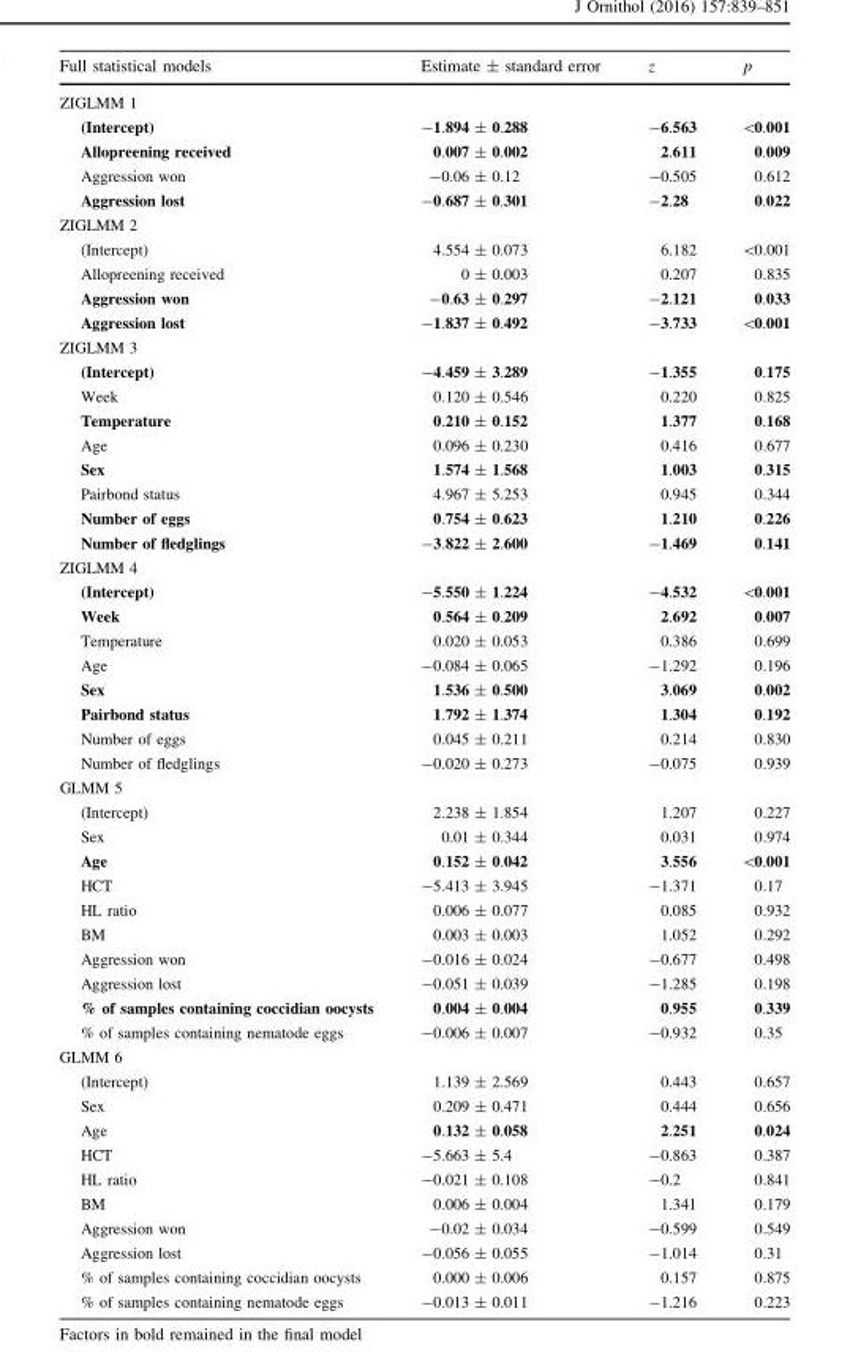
<table><thead><tr><td>Full statistical models</td><td>Estimate ± standard error</td><td>z</td><td>p</td></tr></thead><tbody><tr><td colspan="4">ZIGLMM 1</td></tr><tr><td>(Intercept)</td><td>-1.894 ± 0.288</td><td>-6.563</td><td>&lt;0.001</td></tr><tr><td>Allopreening received</td><td>0.007 ± 0.002</td><td>2.611</td><td>0.009</td></tr><tr><td>Aggression won</td><td>-0.06 ± 0.12</td><td>-0.505</td><td>0.612</td></tr><tr><td>Aggression lost</td><td>-0.687 ± 0.301</td><td>-2.28</td><td>0.022</td></tr><tr><td colspan="4">ZIGLMM 2</td></tr><tr><td>(Intercept)</td><td>4.554 ± 0.073</td><td>6.182</td><td>&lt;0.001</td></tr><tr><td>Allopreening received</td><td>0 ± 0.003</td><td>0.207</td><td>0.835</td></tr><tr><td>Aggression won</td><td>-0.63 ± 0.297</td><td>-2.121</td><td>0.033</td></tr><tr><td>Aggression lost</td><td>-1.837 ± 0.492</td><td>-3.733</td><td>&lt;0.001</td></tr><tr><td colspan="4">ZIGLMM 3</td></tr><tr><td>(Intercept)</td><td>-4.459 ± 3.289</td><td>-1.355</td><td>0.175</td></tr><tr><td>Week</td><td>0.120 ± 0.546</td><td>0.220</td><td>0.825</td></tr><tr><td>Temperature</td><td>0.210 ± 0.152</td><td>1.377</td><td>0.168</td></tr><tr><td>Age</td><td>0.096 ± 0.230</td><td>0.416</td><td>0.677</td></tr><tr><td>Sex</td><td>1.574 ± 1.568</td><td>1.003</td><td>0.315</td></tr><tr><td>Pairbond status</td><td>4.967 ± 5.253</td><td>0.945</td><td>0.344</td></tr><tr><td>Number of eggs</td><td>0.754 ± 0.623</td><td>1.210</td><td>0.226</td></tr><tr><td>Number of fledglings</td><td>-3.822 ± 2.600</td><td>-1.469</td><td>0.141</td></tr><tr><td colspan="4">ZIGLMM 4</td></tr><tr><td>(Intercept)</td><td>-5.550 ± 1.224</td><td>-4.532</td><td>&lt;0.001</td></tr><tr><td>Week</td><td>0.564 ± 0.209</td><td>2.692</td><td>0.007</td></tr><tr><td>Temperature</td><td>0.020 ± 0.053</td><td>0.386</td><td>0.699</td></tr><tr><td>Age</td><td>-0.084 ± 0.065</td><td>-1.292</td><td>0.196</td></tr><tr><td>Sex</td><td>1.536 ± 0.500</td><td>3.069</td><td>0.002</td></tr><tr><td>Pairbond status</td><td>1.792 ± 1.374</td><td>1.304</td><td>0.192</td></tr><tr><td>Number of eggs</td><td>0.045 ± 0.211</td><td>0.214</td><td>0.830</td></tr><tr><td>Number of fledglings</td><td>-0.020 ± 0.273</td><td>-0.075</td><td>0.939</td></tr><tr><td colspan="4">GLMM 5</td></tr><tr><td>(Intercept)</td><td>2.238 ± 1.854</td><td>1.207</td><td>0.227</td></tr><tr><td>Sex</td><td>0.01 ± 0.344</td><td>0.031</td><td>0.974</td></tr><tr><td>Age</td><td>0.152 ± 0.042</td><td>3.556</td><td>&lt;0.001</td></tr><tr><td>HCT</td><td>-5.413 ± 3.945</td><td>-1.371</td><td>0.17</td></tr><tr><td>HL ratio</td><td>0.006 ± 0.077</td><td>0.085</td><td>0.932</td></tr><tr><td>BM</td><td>0.003 ± 0.003</td><td>1.052</td><td>0.292</td></tr><tr><td>Aggression won</td><td>-0.016 ± 0.024</td><td>-0.677</td><td>0.498</td></tr><tr><td>Aggression lost</td><td>-0.051 ± 0.039</td><td>-1.285</td><td>0.198</td></tr><tr><td>% of samples containing coccidian oocysts</td><td>0.004 ± 0.004</td><td>0.955</td><td>0.339</td></tr><tr><td>% of samples containing nematode eggs</td><td>-0.006 ± 0.007</td><td>-0.932</td><td>0.35</td></tr><tr><td colspan="4">GLMM 6</td></tr><tr><td>(Intercept)</td><td>1.139 ± 2.569</td><td>0.443</td><td>0.657</td></tr><tr><td>Sex</td><td>0.209 ± 0.471</td><td>0.444</td><td>0.656</td></tr><tr><td>Age</td><td>0.132 ± 0.058</td><td>2.251</td><td>0.024</td></tr><tr><td>HCT</td><td>-5.663 ± 5.4</td><td>-0.863</td><td>0.387</td></tr><tr><td>HL ratio</td><td>-0.021 ± 0.108</td><td>-0.2</td><td>0.841</td></tr><tr><td>BM</td><td>0.006 ± 0.004</td><td>1.341</td><td>0.179</td></tr><tr><td>Aggression won</td><td>-0.02 ± 0.034</td><td>-0.599</td><td>0.549</td></tr><tr><td>Aggression lost</td><td>-0.056 ± 0.055</td><td>-1.014</td><td>0.31</td></tr><tr><td>% of samples containing coccidian oocysts</td><td>0.000 ± 0.006</td><td>0.157</td><td>0.875</td></tr><tr><td>% of samples containing nematode eggs</td><td>-0.013 ± 0.011</td><td>-1.216</td><td>0.223</td></tr></tbody></table>